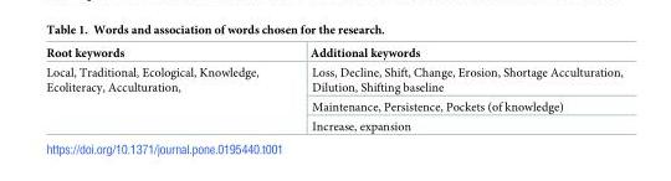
<table><thead><tr><td>Root keywords</td><td>Additional keywords</td></tr></thead><tbody><tr><td rowspan="3">Local, Traditional, Ecological, Knowledge, Ecoliteracy, Acculturation,</td><td>Loss, Decline, Shift, Change, Erosion, Shortage Acculturation, Dilution, Shifting baseline</td></tr><tr><td>Maintenance, Persistence, Pockets (of knowledge)</td></tr><tr><td>Increase, expansion</td></tr></tbody></table>